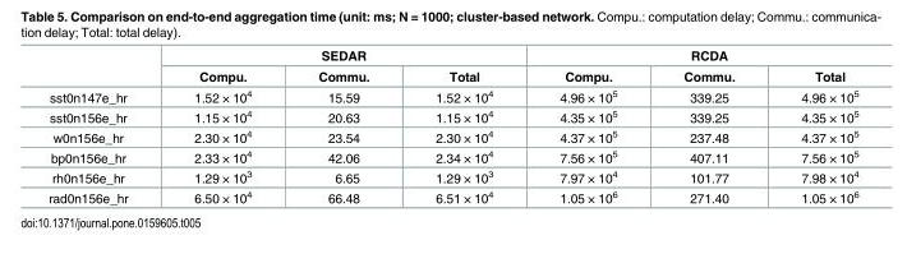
<table><thead><tr><td rowspan="2"></td><td colspan="3">SEDAR</td><td colspan="3">RCDA</td></tr><tr><td>Compu.</td><td>Commu.</td><td>Total</td><td>Compu.</td><td>Commu.</td><td>Total</td></tr></thead><tbody><tr><td>sst0n147e_hr</td><td>1.52 × 10<sup>4</sup></td><td>15.59</td><td>1.52 × 10<sup>4</sup></td><td>4.96 × 10<sup>5</sup></td><td>339.25</td><td>4.96 × 10<sup>5</sup></td></tr><tr><td>sst0n156e_hr</td><td>1.15 × 10<sup>4</sup></td><td>20.63</td><td>1.15 × 10<sup>4</sup></td><td>4.35 × 10<sup>5</sup></td><td>339.25</td><td>4.35 × 10<sup>5</sup></td></tr><tr><td>w0n156e_hr</td><td>2.30 × 10<sup>4</sup></td><td>23.54</td><td>2.30 × 10<sup>4</sup></td><td>4.37 × 10<sup>5</sup></td><td>237.48</td><td>4.37 × 10<sup>5</sup></td></tr><tr><td>bp0n156e_hr</td><td>2.33 × 10<sup>4</sup></td><td>42.06</td><td>2.34 × 10<sup>4</sup></td><td>7.56 × 10<sup>5</sup></td><td>407.11</td><td>7.56 × 10<sup>5</sup></td></tr><tr><td>rh0n156e_hr</td><td>1.29 × 10<sup>3</sup></td><td>6.65</td><td>1.29 × 10<sup>3</sup></td><td>7.97 × 10<sup>4</sup></td><td>101.77</td><td>7.98 × 10<sup>4</sup></td></tr><tr><td>rad0n156e_hr</td><td>6.50 × 10<sup>4</sup></td><td>66.48</td><td>6.51 × 10<sup>4</sup></td><td>1.05 × 10<sup>6</sup></td><td>271.40</td><td>1.05 × 10<sup>6</sup></td></tr></tbody></table>